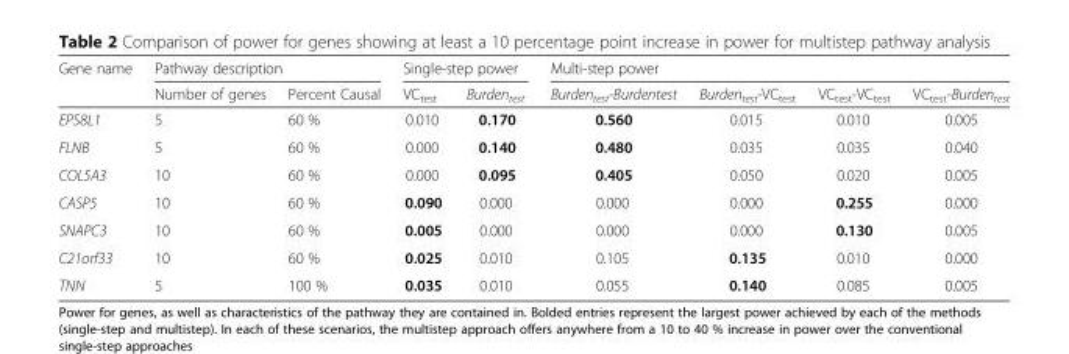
<table><thead><tr><td rowspan="2">Gene name</td><td colspan="2">Pathway description</td><td colspan="2">Single-step power</td><td colspan="4">Multi-step power</td></tr><tr><td>Number of genes</td><td>Percent Causal</td><td>VC<sub>test</sub></td><td>Burden<sub>test</sub></td><td>Burden<sub>test</sub>-Burdentest</td><td>Burden<sub>test</sub>-VC<sub>test</sub></td><td>VC<sub>test</sub>-VC<sub>test</sub></td><td>VC<sub>test</sub>-Burden<sub>test</sub></td></tr></thead><tbody><tr><td>EPS8L1</td><td>5</td><td>60 %</td><td>0.010</td><td>0.170</td><td>0.560</td><td>0.015</td><td>0.010</td><td>0.005</td></tr><tr><td>FLNB</td><td>5</td><td>60 %</td><td>0.000</td><td>0.140</td><td>0.480</td><td>0.035</td><td>0.035</td><td>0.040</td></tr><tr><td>COL5A3</td><td>10</td><td>60 %</td><td>0.000</td><td>0.095</td><td>0.405</td><td>0.050</td><td>0.020</td><td>0.005</td></tr><tr><td>CASP5</td><td>10</td><td>60 %</td><td>0.090</td><td>0.000</td><td>0.000</td><td>0.000</td><td>0.255</td><td>0.000</td></tr><tr><td>SNAPC3</td><td>10</td><td>60 %</td><td>0.005</td><td>0.000</td><td>0.000</td><td>0.000</td><td>0.130</td><td>0.005</td></tr><tr><td>C21orf33</td><td>10</td><td>60 %</td><td>0.025</td><td>0.010</td><td>0.105</td><td>0.135</td><td>0.010</td><td>0.000</td></tr><tr><td>TNN</td><td>5</td><td>100 %</td><td>0.035</td><td>0.010</td><td>0.055</td><td>0.140</td><td>0.085</td><td>0.005</td></tr></tbody></table>